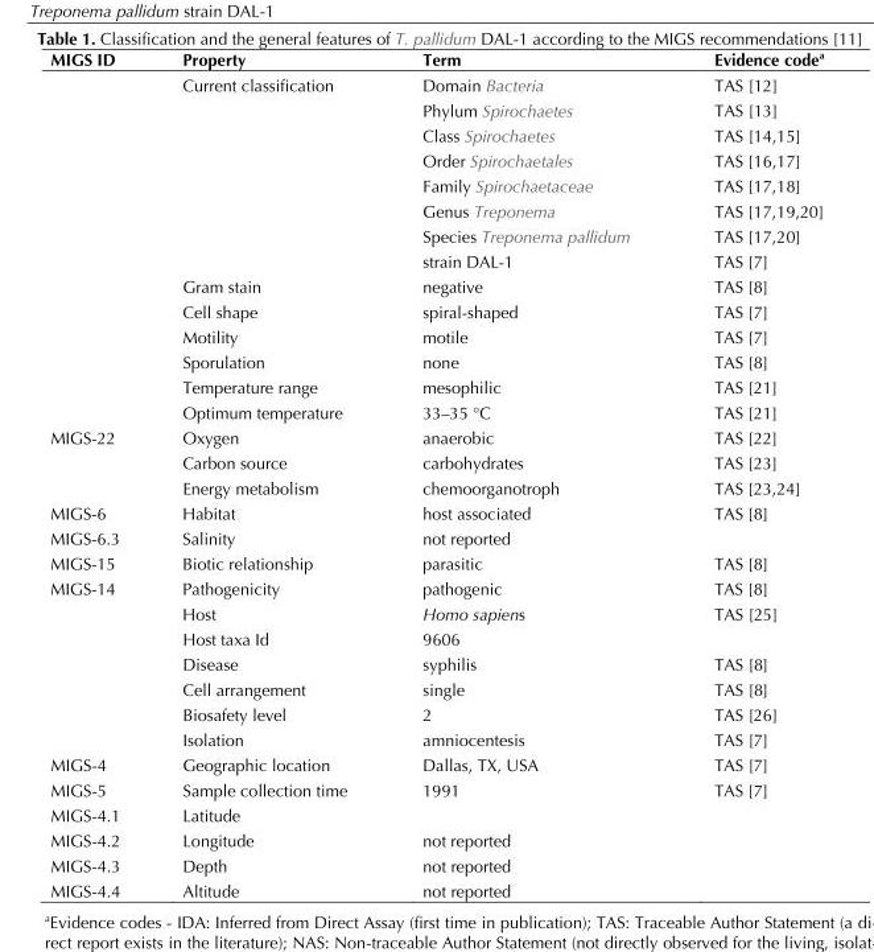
<table><thead><tr><td>MIGS ID</td><td>Property</td><td>Term</td><td>Evidence code<sup>a</sup></td></tr></thead><tbody><tr><td></td><td>Current classification</td><td>Domain Bacteria</td><td>TAS [12]</td></tr><tr><td></td><td></td><td>Phylum Spirochaetes</td><td>TAS [13]</td></tr><tr><td></td><td></td><td>Class Spirochaetes</td><td>TAS [14,15]</td></tr><tr><td></td><td></td><td>Order Spirochaetales</td><td>TAS [16,17]</td></tr><tr><td></td><td></td><td>Family Spirochaetaceae</td><td>TAS [17,18]</td></tr><tr><td></td><td></td><td>Genus Treponema</td><td>TAS [17,19,20]</td></tr><tr><td></td><td></td><td>Species Treponema pallidum</td><td>TAS [17,20]</td></tr><tr><td></td><td></td><td>strain DAL-1</td><td>TAS [7]</td></tr><tr><td></td><td>Gram stain</td><td>negative</td><td>TAS [8]</td></tr><tr><td></td><td>Cell shape</td><td>spiral-shaped</td><td>TAS [7]</td></tr><tr><td></td><td>Motility</td><td>motile</td><td>TAS [7]</td></tr><tr><td></td><td>Sporulation</td><td>none</td><td>TAS [8]</td></tr><tr><td></td><td>Temperature range</td><td>mesophilic</td><td>TAS [21]</td></tr><tr><td></td><td>Optimum temperature</td><td>33–35 °C</td><td>TAS [21]</td></tr><tr><td rowspan="3">MIGS-22</td><td>Oxygen</td><td>anaerobic</td><td>TAS [22]</td></tr><tr><td>Carbon source</td><td>carbohydrates</td><td>TAS [23]</td></tr><tr><td>Energy metabolism</td><td>chemoorganotroph</td><td>TAS [23,24]</td></tr><tr><td>MIGS-6</td><td>Habitat</td><td>host associated</td><td>TAS [8]</td></tr><tr><td>MIGS-6.3</td><td>Salinity</td><td>not reported</td><td></td></tr><tr><td>MIGS-15</td><td>Biotic relationship</td><td>parasitic</td><td>TAS [8]</td></tr><tr><td rowspan="7">MIGS-14</td><td>Pathogenicity</td><td>pathogenic</td><td>TAS [8]</td></tr><tr><td>Host</td><td>Homo sapiens</td><td>TAS [25]</td></tr><tr><td>Host taxa Id</td><td>9606</td><td></td></tr><tr><td>Disease</td><td>syphilis</td><td>TAS [8]</td></tr><tr><td>Cell arrangement</td><td>single</td><td>TAS [8]</td></tr><tr><td>Biosafety level</td><td>2</td><td>TAS [26]</td></tr><tr><td>Isolation</td><td>amniocentesis</td><td>TAS [7]</td></tr><tr><td>MIGS-4</td><td>Geographic location</td><td>Dallas, TX, USA</td><td>TAS [7]</td></tr><tr><td>MIGS-5</td><td>Sample collection time</td><td>1991</td><td>TAS [7]</td></tr><tr><td>MIGS-4.1</td><td>Latitude</td><td></td><td></td></tr><tr><td>MIGS-4.2</td><td>Longitude</td><td>not reported</td><td></td></tr><tr><td>MIGS-4.3</td><td>Depth</td><td>not reported</td><td></td></tr><tr><td>MIGS-4.4</td><td>Altitude</td><td>not reported</td><td></td></tr></tbody></table>